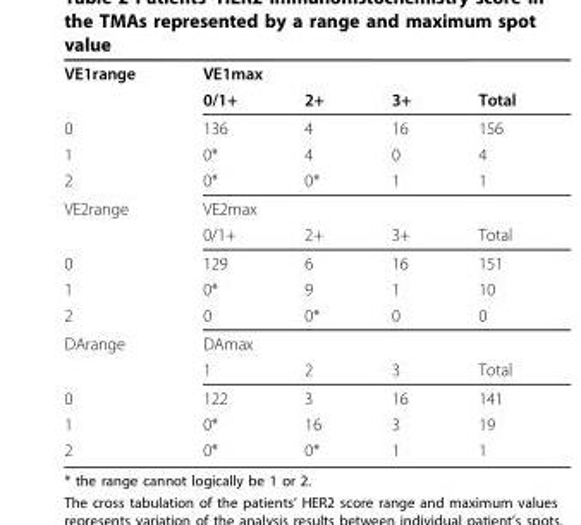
<table><tbody><tr><td rowspan="2">VE1range</td><td colspan="4">VE1max</td></tr><tr><td>0/1+</td><td>2+</td><td>3+</td><td>Total</td></tr><tr><td>0</td><td>136</td><td>4</td><td>16</td><td>156</td></tr><tr><td>1</td><td>0*</td><td>4</td><td>0</td><td>4</td></tr><tr><td>2</td><td>0*</td><td>0*</td><td>1</td><td>1</td></tr><tr><td rowspan="2">VE2range</td><td colspan="4">VE2max</td></tr><tr><td>0/1+</td><td>2+</td><td>3+</td><td>Total</td></tr><tr><td>0</td><td>129</td><td>6</td><td>16</td><td>151</td></tr><tr><td>1</td><td>0*</td><td>9</td><td>1</td><td>10</td></tr><tr><td>2</td><td>0</td><td>0*</td><td>0</td><td>0</td></tr><tr><td rowspan="2">DArange</td><td colspan="4">DAmax</td></tr><tr><td>1</td><td>2</td><td>3</td><td>Total</td></tr><tr><td>0</td><td>122</td><td>3</td><td>16</td><td>141</td></tr><tr><td>1</td><td>0*</td><td>16</td><td>3</td><td>19</td></tr><tr><td>2</td><td>0*</td><td>0*</td><td>1</td><td>1</td></tr></tbody></table>